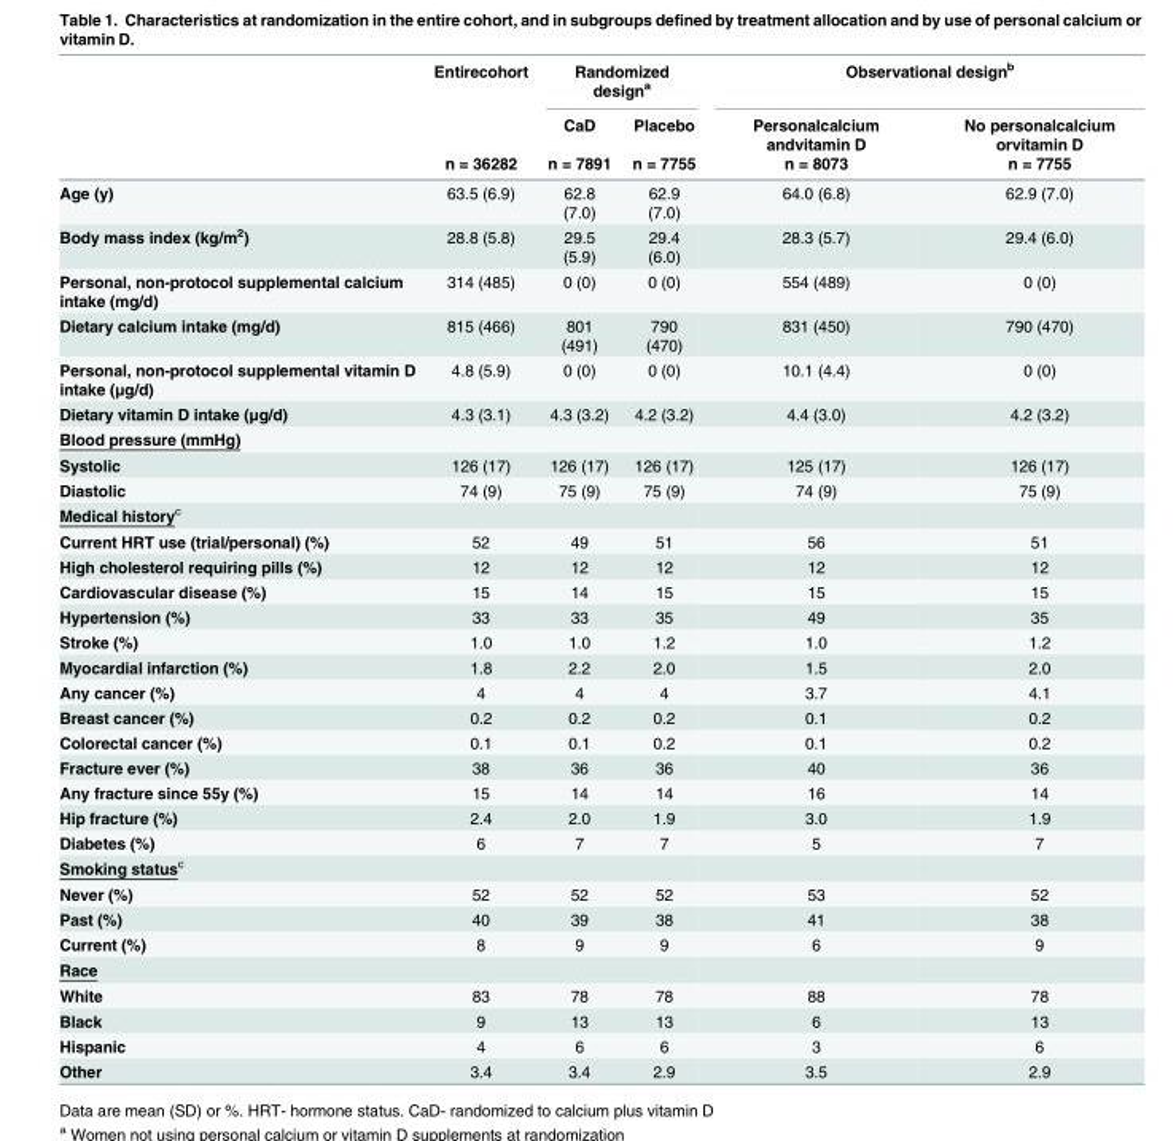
<table><thead><tr><td rowspan="3"></td><td rowspan="3">Entirecohort n = 36282</td><td colspan="2">Randomized design<sup>a</sup></td><td colspan="2">Observational design<sup>b</sup></td></tr><tr><td rowspan="2">CaD n = 7891</td><td rowspan="2">Placebo n = 7755</td><td rowspan="2">Personalcalcium andvitamin D n = 8073</td><td rowspan="2">No personalcalcium orvitamin D n = 7755</td></tr><tr></tr></thead><tbody><tr><td>Age (y)</td><td>63.5 (6.9)</td><td>62.8 (7.0)</td><td>62.9 (7.0)</td><td>64.0 (6.8)</td><td>62.9 (7.0)</td></tr><tr><td>Body mass index (kg/m<sup>2</sup>)</td><td>28.8 (5.8)</td><td>29.5 (5.9)</td><td>29.4 (6.0)</td><td>28.3 (5.7)</td><td>29.4 (6.0)</td></tr><tr><td>Personal, non-protocol supplemental calcium intake (mg/d)</td><td>314 (485)</td><td>0 (0)</td><td>0 (0)</td><td>554 (489)</td><td>0 (0)</td></tr><tr><td>Dietary calcium intake (mg/d)</td><td>815 (466)</td><td>801 (491)</td><td>790 (470)</td><td>831 (450)</td><td>790 (470)</td></tr><tr><td>Personal, non-protocol supplemental vitamin D intake (μg/d)</td><td>4.8 (5.9)</td><td>0 (0)</td><td>0 (0)</td><td>10.1 (4.4)</td><td>0 (0)</td></tr><tr><td>Dietary vitamin D intake (μg/d)</td><td>4.3 (3.1)</td><td>4.3 (3.2)</td><td>4.2 (3.2)</td><td>4.4 (3.0)</td><td>4.2 (3.2)</td></tr><tr><td colspan="6">Blood pressure (mmHg)</td></tr><tr><td>Systolic</td><td>126 (17)</td><td>126 (17)</td><td>126 (17)</td><td>125 (17)</td><td>126 (17)</td></tr><tr><td>Diastolic</td><td>74 (9)</td><td>75 (9)</td><td>75 (9)</td><td>74 (9)</td><td>75 (9)</td></tr><tr><td colspan="6">Medical history<sup>c</sup></td></tr><tr><td>Current HRT use (trial/personal) (%)</td><td>52</td><td>49</td><td>51</td><td>56</td><td>51</td></tr><tr><td>High cholesterol requiring pills (%)</td><td>12</td><td>12</td><td>12</td><td>12</td><td>12</td></tr><tr><td>Cardiovascular disease (%)</td><td>15</td><td>14</td><td>15</td><td>15</td><td>15</td></tr><tr><td>Hypertension (%)</td><td>33</td><td>33</td><td>35</td><td>49</td><td>35</td></tr><tr><td>Stroke (%)</td><td>1.0</td><td>1.0</td><td>1.2</td><td>1.0</td><td>1.2</td></tr><tr><td>Myocardial infarction (%)</td><td>1.8</td><td>2.2</td><td>2.0</td><td>1.5</td><td>2.0</td></tr><tr><td>Any cancer (%)</td><td>4</td><td>4</td><td>4</td><td>3.7</td><td>4.1</td></tr><tr><td>Breast cancer (%)</td><td>0.2</td><td>0.2</td><td>0.2</td><td>0.1</td><td>0.2</td></tr><tr><td>Colorectal cancer (%)</td><td>0.1</td><td>0.1</td><td>0.2</td><td>0.1</td><td>0.2</td></tr><tr><td>Fracture ever (%)</td><td>38</td><td>36</td><td>36</td><td>40</td><td>36</td></tr><tr><td>Any fracture since 55y (%)</td><td>15</td><td>14</td><td>14</td><td>16</td><td>14</td></tr><tr><td>Hip fracture (%)</td><td>2.4</td><td>2.0</td><td>1.9</td><td>3.0</td><td>1.9</td></tr><tr><td>Diabetes (%)</td><td>6</td><td>7</td><td>7</td><td>5</td><td>7</td></tr><tr><td colspan="6">Smoking status<sup>c</sup></td></tr><tr><td>Never (%)</td><td>52</td><td>52</td><td>52</td><td>53</td><td>52</td></tr><tr><td>Past (%)</td><td>40</td><td>39</td><td>38</td><td>41</td><td>38</td></tr><tr><td>Current (%)</td><td>8</td><td>9</td><td>9</td><td>6</td><td>9</td></tr><tr><td colspan="6">Race</td></tr><tr><td>White</td><td>83</td><td>78</td><td>78</td><td>88</td><td>78</td></tr><tr><td>Black</td><td>9</td><td>13</td><td>13</td><td>6</td><td>13</td></tr><tr><td>Hispanic</td><td>4</td><td>6</td><td>6</td><td>3</td><td>6</td></tr><tr><td>Other</td><td>3.4</td><td>3.4</td><td>2.9</td><td>3.5</td><td>2.9</td></tr></tbody></table>